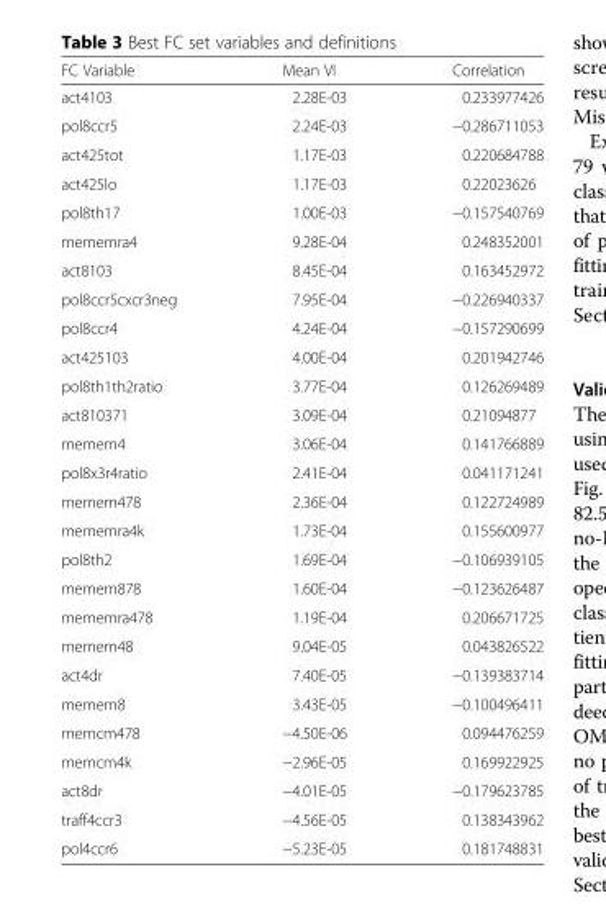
<table><thead><tr><td>FC Variable</td><td>Mean VI</td><td>Correlation</td></tr></thead><tbody><tr><td>act4103</td><td>2.28E-03</td><td>0.233977426</td></tr><tr><td>pol8ccr5</td><td>2.24E-03</td><td>−0.286711053</td></tr><tr><td>act425tot</td><td>1.17E-03</td><td>0.220684788</td></tr><tr><td>act425lo</td><td>1.17E-03</td><td>0.22023626</td></tr><tr><td>pol8th17</td><td>1.00E-03</td><td>−0.157540769</td></tr><tr><td>mememra4</td><td>9.28E-04</td><td>0.248352001</td></tr><tr><td>act8103</td><td>8.45E-04</td><td>0.163452972</td></tr><tr><td>pol8ccr5cxcr3neg</td><td>7.95E-04</td><td>−0.226940337</td></tr><tr><td>pol8ccr4</td><td>4.24E-04</td><td>−0.157290699</td></tr><tr><td>act425103</td><td>4.00E-04</td><td>0.201942746</td></tr><tr><td>pol8th1th2ratio</td><td>3.77E-04</td><td>0.126269489</td></tr><tr><td>act810371</td><td>3.09E-04</td><td>0.21094877</td></tr><tr><td>memem4</td><td>3.06E-04</td><td>0.141766889</td></tr><tr><td>pol8x3r4ratio</td><td>2.41E-04</td><td>0.041171241</td></tr><tr><td>memem478</td><td>2.36E-04</td><td>0.122724989</td></tr><tr><td>mememra4k</td><td>1.73E-04</td><td>0.155600977</td></tr><tr><td>pol8th2</td><td>1.69E-04</td><td>−0.106939105</td></tr><tr><td>memem878</td><td>1.60E-04</td><td>−0.123626487</td></tr><tr><td>mememra478</td><td>1.19E-04</td><td>0.206671725</td></tr><tr><td>memem48</td><td>9.04E-05</td><td>0.043826522</td></tr><tr><td>act4dr</td><td>7.40E-05</td><td>−0.139383714</td></tr><tr><td>memem8</td><td>3.43E-05</td><td>−0.100496411</td></tr><tr><td>memcm478</td><td>−4.50E-06</td><td>0.094476259</td></tr><tr><td>memcm4k</td><td>−2.96E-05</td><td>0.169922925</td></tr><tr><td>act8dr</td><td>−4.01E-05</td><td>−0.179623785</td></tr><tr><td>traff4ccr3</td><td>−4.56E-05</td><td>0.138343962</td></tr><tr><td>pol4ccr6</td><td>−5.23E-05</td><td>0.181748831</td></tr></tbody></table>